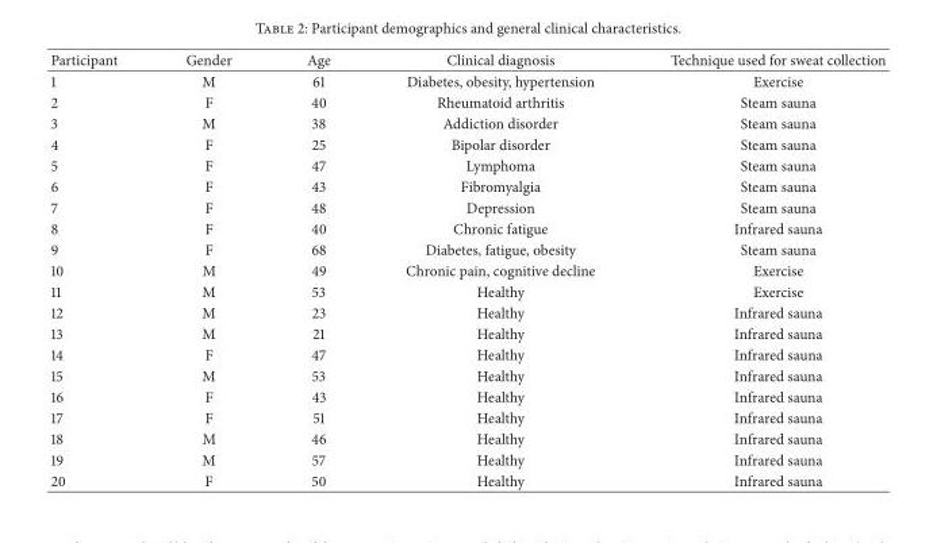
<table><thead><tr><td>Participant</td><td>Gender</td><td>Age</td><td>Clinical diagnosis</td><td>Technique used for sweat collection</td></tr></thead><tbody><tr><td>1</td><td>M</td><td>61</td><td>Diabetes, obesity, hypertension</td><td>Exercise</td></tr><tr><td>2</td><td>F</td><td>40</td><td>Rheumatoid arthritis</td><td>Steam sauna</td></tr><tr><td>3</td><td>M</td><td>38</td><td>Addiction disorder</td><td>Steam sauna</td></tr><tr><td>4</td><td>F</td><td>25</td><td>Bipolar disorder</td><td>Steam sauna</td></tr><tr><td>5</td><td>F</td><td>47</td><td>Lymphoma</td><td>Steam sauna</td></tr><tr><td>6</td><td>F</td><td>43</td><td>Fibromyalgia</td><td>Steam sauna</td></tr><tr><td>7</td><td>F</td><td>48</td><td>Depression</td><td>Steam sauna</td></tr><tr><td>8</td><td>F</td><td>40</td><td>Chronic fatigue</td><td>Infrared sauna</td></tr><tr><td>9</td><td>F</td><td>68</td><td>Diabetes, fatigue, obesity</td><td>Steam sauna</td></tr><tr><td>10</td><td>M</td><td>49</td><td>Chronic pain, cognitive decline</td><td>Exercise</td></tr><tr><td>11</td><td>M</td><td>53</td><td>Healthy</td><td>Exercise</td></tr><tr><td>12</td><td>M</td><td>23</td><td>Healthy</td><td>Infrared sauna</td></tr><tr><td>13</td><td>M</td><td>21</td><td>Healthy</td><td>Infrared sauna</td></tr><tr><td>14</td><td>F</td><td>47</td><td>Healthy</td><td>Infrared sauna</td></tr><tr><td>15</td><td>M</td><td>53</td><td>Healthy</td><td>Infrared sauna</td></tr><tr><td>16</td><td>F</td><td>43</td><td>Healthy</td><td>Infrared sauna</td></tr><tr><td>17</td><td>F</td><td>51</td><td>Healthy</td><td>Infrared sauna</td></tr><tr><td>18</td><td>M</td><td>46</td><td>Healthy</td><td>Infrared sauna</td></tr><tr><td>19</td><td>M</td><td>57</td><td>Healthy</td><td>Infrared sauna</td></tr><tr><td>20</td><td>F</td><td>50</td><td>Healthy</td><td>Infrared sauna</td></tr></tbody></table>